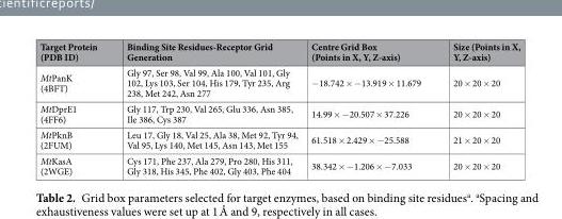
<table><thead><tr><td>Target Protein (PDB ID)</td><td>Binding Site Residues-Receptor Grid Generation</td><td>Centre Grid Box (Points in X, Y, Z-axis)</td><td>Size (Points in X, Y, Z-axis)</td></tr></thead><tbody><tr><td>MtPanK (4BFT)</td><td>Gly 97, Ser 98, Val 99, Ala 100, Val 101, Gly 102, Lys 103, Ser 104, His 179, Tyr 235, Arg 238, Met 242, Asn 277</td><td>−18.742 × −13.919 × 11.679</td><td>20 × 20 × 20</td></tr><tr><td>MtDprE1 (4FF6)</td><td>Gly 117, Trp 230, Val 265, Glu 336, Asn 385, Ile 386, Cys 387</td><td>14.99 × −20.507 × 37.226</td><td>20 × 20 × 20</td></tr><tr><td>MtPknB (2FUM)</td><td>Leu 17, Gly 18, Val 25, Ala 38, Met 92, Tyr 94, Val 95, Lys 140, Met 145, Asn 143, Met 155</td><td>61.518 × 2.429 × −25.588</td><td>21 × 20 × 20</td></tr><tr><td>MtKasA (2WGE)</td><td>Cys 171, Phe 237, Ala 279, Pro 280, His 311, Gly 318, His 345, Phe 402, Gly 403, Phe 404</td><td>38.342 × −1.206 × −7.033</td><td>20 × 20 × 20</td></tr></tbody></table>